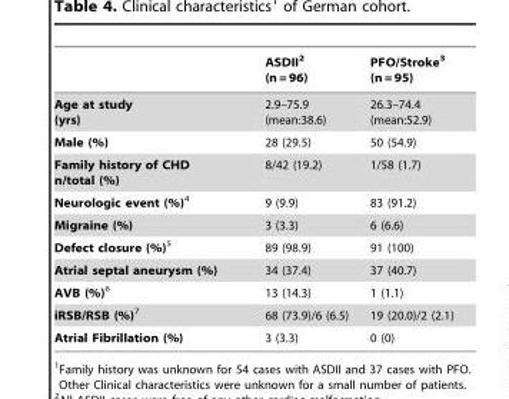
<table><thead><tr><td></td><td>ASDII<sup>2</sup> (n = 96)</td><td>PFO/Stroke<sup>3</sup> (n = 95)</td></tr></thead><tbody><tr><td>Age at study (yrs)</td><td>2.9–75.9 (mean:38.6)</td><td>26.3–74.4 (mean:52.9)</td></tr><tr><td>Male (%)</td><td>28 (29.5)</td><td>50 (54.9)</td></tr><tr><td>Family history of CHD n/total (%)</td><td>8/42 (19.2)</td><td>1/58 (1.7)</td></tr><tr><td>Neurologic event (%)4</td><td>9 (9.9)</td><td>83 (91.2)</td></tr><tr><td>Migraine (%)</td><td>3 (3.3)</td><td>6 (6.6)</td></tr><tr><td>Defect closure (%)5</td><td>89 (98.9)</td><td>91 (100)</td></tr><tr><td>Atrial septal aneurysm (%)</td><td>34 (37.4)</td><td>37 (40.7)</td></tr><tr><td>AVB (%)6</td><td>13 (14.3)</td><td>1 (1.1)</td></tr><tr><td>iRSB/RSB (%)7</td><td>68 (73.9)/6 (6.5)</td><td>19 (20.0)/2 (2.1)</td></tr><tr><td>Atrial Fibrillation (%)</td><td>3 (3.3)</td><td>0 (0)</td></tr></tbody></table>